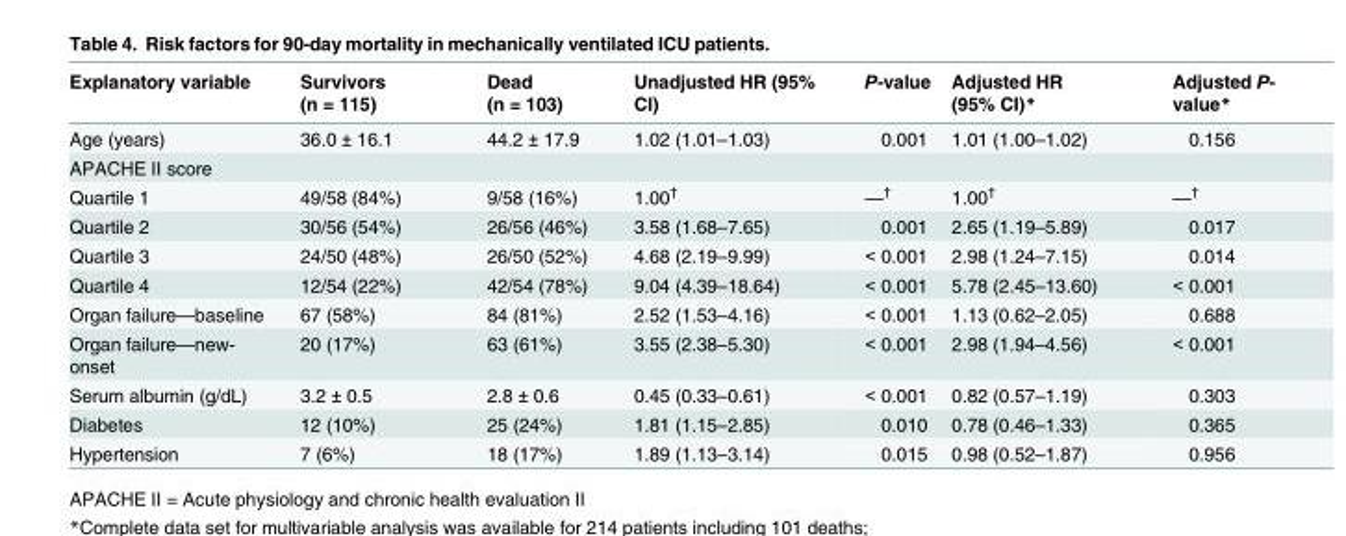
<table><thead><tr><td>Explanatory variable</td><td>Survivors (n = 115)</td><td>Dead (n = 103)</td><td>Unadjusted HR (95% CI)</td><td>P-value</td><td>Adjusted HR (95% CI)*</td><td>Adjusted P- value*</td></tr></thead><tbody><tr><td>Age (years)</td><td>36.0 ± 16.1</td><td>44.2 ± 17.9</td><td>1.02 (1.01–1.03)</td><td>0.001</td><td>1.01 (1.00–1.02)</td><td>0.156</td></tr><tr><td colspan="7">APACHE II score</td></tr><tr><td>Quartile 1</td><td>49/58 (84%)</td><td>9/58 (16%)</td><td>1.00<sup>†</sup></td><td>—<sup>†</sup></td><td>1.00<sup>†</sup></td><td>—<sup>†</sup></td></tr><tr><td>Quartile 2</td><td>30/56 (54%)</td><td>26/56 (46%)</td><td>3.58 (1.68–7.65)</td><td>0.001</td><td>2.65 (1.19–5.89)</td><td>0.017</td></tr><tr><td>Quartile 3</td><td>24/50 (48%)</td><td>26/50 (52%)</td><td>4.68 (2.19–9.99)</td><td>&lt; 0.001</td><td>2.98 (1.24–7.15)</td><td>0.014</td></tr><tr><td>Quartile 4</td><td>12/54 (22%)</td><td>42/54 (78%)</td><td>9.04 (4.39–18.64)</td><td>&lt; 0.001</td><td>5.78 (2.45–13.60)</td><td>&lt; 0.001</td></tr><tr><td>Organ failure—baseline</td><td>67 (58%)</td><td>84 (81%)</td><td>2.52 (1.53–4.16)</td><td>&lt; 0.001</td><td>1.13 (0.62–2.05)</td><td>0.688</td></tr><tr><td>Organ failure—new- onset</td><td>20 (17%)</td><td>63 (61%)</td><td>3.55 (2.38–5.30)</td><td>&lt; 0.001</td><td>2.98 (1.94–4.56)</td><td>&lt; 0.001</td></tr><tr><td>Serum albumin (g/dL)</td><td>3.2 ± 0.5</td><td>2.8 ± 0.6</td><td>0.45 (0.33–0.61)</td><td>&lt; 0.001</td><td>0.82 (0.57–1.19)</td><td>0.303</td></tr><tr><td>Diabetes</td><td>12 (10%)</td><td>25 (24%)</td><td>1.81 (1.15–2.85)</td><td>0.010</td><td>0.78 (0.46–1.33)</td><td>0.365</td></tr><tr><td>Hypertension</td><td>7 (6%)</td><td>18 (17%)</td><td>1.89 (1.13–3.14)</td><td>0.015</td><td>0.98 (0.52–1.87)</td><td>0.956</td></tr></tbody></table>